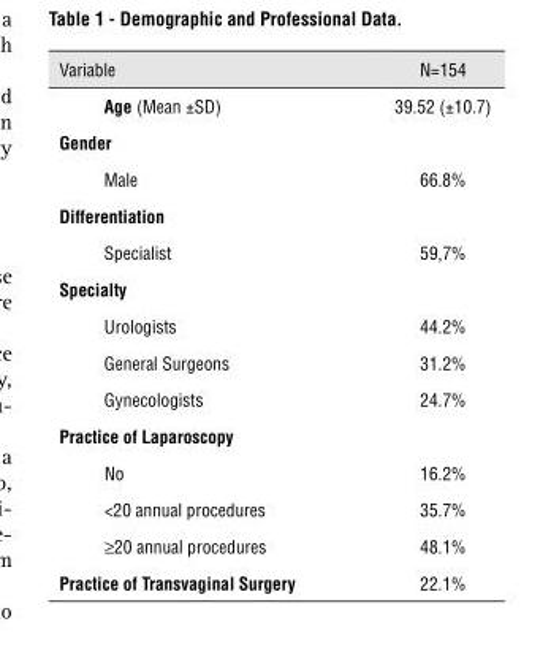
<table><thead><tr><td>Variable</td><td>N=154</td></tr></thead><tbody><tr><td>age (Mean ±SD)</td><td>39.52 (±10.7)</td></tr><tr><td colspan="2">gender</td></tr><tr><td>Male</td><td>66.8%</td></tr><tr><td colspan="2">Differentiation</td></tr><tr><td>Specialist</td><td>59,7%</td></tr><tr><td colspan="2">specialty</td></tr><tr><td>Urologists</td><td>44.2%</td></tr><tr><td>General Surgeons</td><td>31.2%</td></tr><tr><td>Gynecologists</td><td>24.7%</td></tr><tr><td colspan="2">Practice of laparoscopy</td></tr><tr><td>No</td><td>16.2%</td></tr><tr><td>&lt;20 annual procedures</td><td>35.7%</td></tr><tr><td>≥20 annual procedures</td><td>48.1%</td></tr><tr><td>Practice of Transvaginal surgery</td><td>22.1%</td></tr></tbody></table>